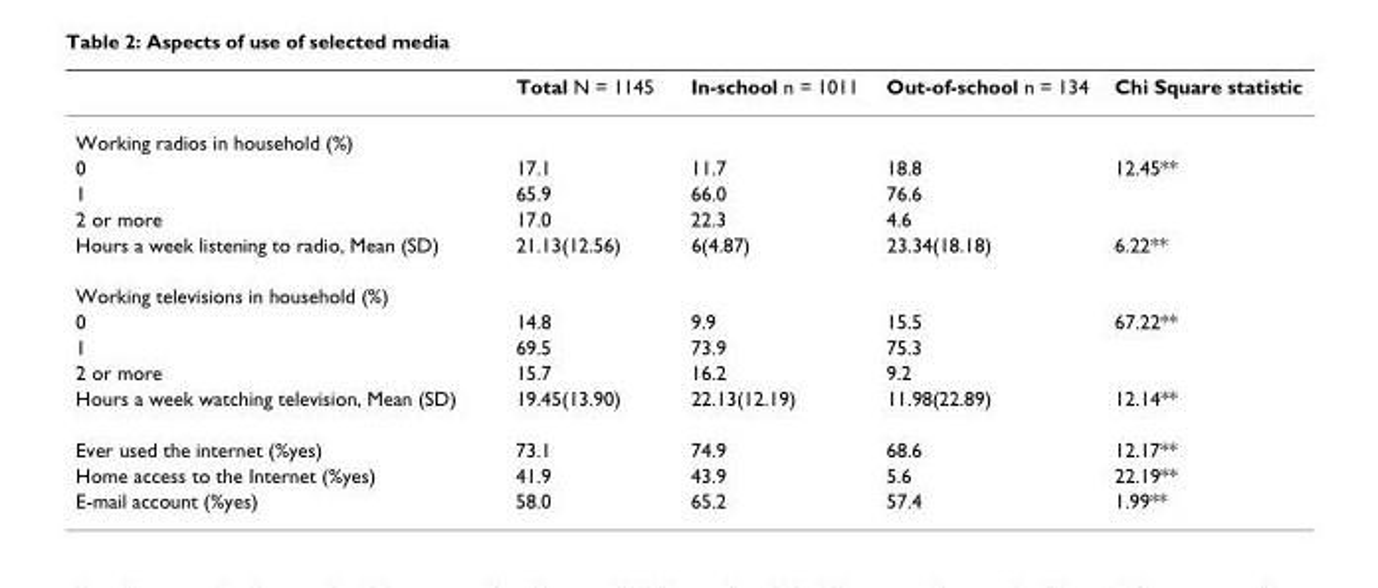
<table><thead><tr><td></td><td>Total N = 1145</td><td>In-school n = 1011</td><td>Out-of-school n = 134</td><td>Chi Square statistic</td></tr></thead><tbody><tr><td colspan="5">Working radios in household (%)</td></tr><tr><td>0</td><td>17.1</td><td>11.7</td><td>18.8</td><td>12.45**</td></tr><tr><td>1</td><td>65.9</td><td>66.0</td><td>76.6</td><td></td></tr><tr><td>2 or more</td><td>17.0</td><td>22.3</td><td>4.6</td><td></td></tr><tr><td>Hours a week listening to radio, Mean (SD)</td><td>21.13(12.56)</td><td>6(4.87)</td><td>23.34(18.18)</td><td>6.22**</td></tr><tr><td colspan="5">Working televisions in household (%)</td></tr><tr><td>0</td><td>14.8</td><td>9.9</td><td>15.5</td><td>67.22**</td></tr><tr><td>1</td><td>69.5</td><td>73.9</td><td>75.3</td><td></td></tr><tr><td>2 or more</td><td>15.7</td><td>16.2</td><td>9.2</td><td></td></tr><tr><td>Hours a week watching television, Mean (SD)</td><td>19.45(13.90)</td><td>22.13(12.19)</td><td>11.98(22.89)</td><td>12.14**</td></tr><tr><td>Ever used the internet (%yes)</td><td>73.1</td><td>74.9</td><td>68.6</td><td>12.17**</td></tr><tr><td>Home access to the Internet (%yes)</td><td>41.9</td><td>43.9</td><td>5.6</td><td>22.19**</td></tr><tr><td>E-mail account (%yes)</td><td>58.0</td><td>65.2</td><td>57.4</td><td>1.99**</td></tr></tbody></table>